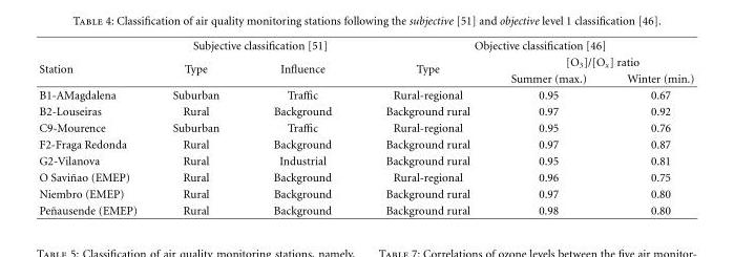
<table><thead><tr><td rowspan="3">Station</td><td colspan="2">Subjective classification [51]</td><td colspan="3">Objective classification [46]</td></tr><tr><td rowspan="2">Type</td><td rowspan="2">Influence</td><td rowspan="2">Type</td><td colspan="2">[O<sub>3</sub>]/[O<sub>x</sub>] ratio</td></tr><tr><td>Summer (max.)</td><td>Winter (min.)</td></tr></thead><tbody><tr><td>B1-AMagdalena</td><td>Suburban</td><td>Traffic</td><td>Rural-regional</td><td>0.95</td><td>0.67</td></tr><tr><td>B2-Louseiras</td><td>Rural</td><td>Background</td><td>Background rural</td><td>0.97</td><td>0.92</td></tr><tr><td>C9-Mourence</td><td>Suburban</td><td>Traffic</td><td>Rural-regional</td><td>0.95</td><td>0.76</td></tr><tr><td>F2-Fraga Redonda</td><td>Rural</td><td>Background</td><td>Background rural</td><td>0.97</td><td>0.87</td></tr><tr><td>G2-Vilanova</td><td>Rural</td><td>Industrial</td><td>Background rural</td><td>0.95</td><td>0.81</td></tr><tr><td>O Savi˜nao (EMEP)</td><td>Rural</td><td>Background</td><td>Rural-regional</td><td>0.96</td><td>0.75</td></tr><tr><td>Niembro (EMEP)</td><td>Rural</td><td>Background</td><td>Background rural</td><td>0.97</td><td>0.80</td></tr><tr><td>Pe˜nausende (EMEP)</td><td>Rural</td><td>Background</td><td>Background rural</td><td>0.98</td><td>0.80</td></tr></tbody></table>